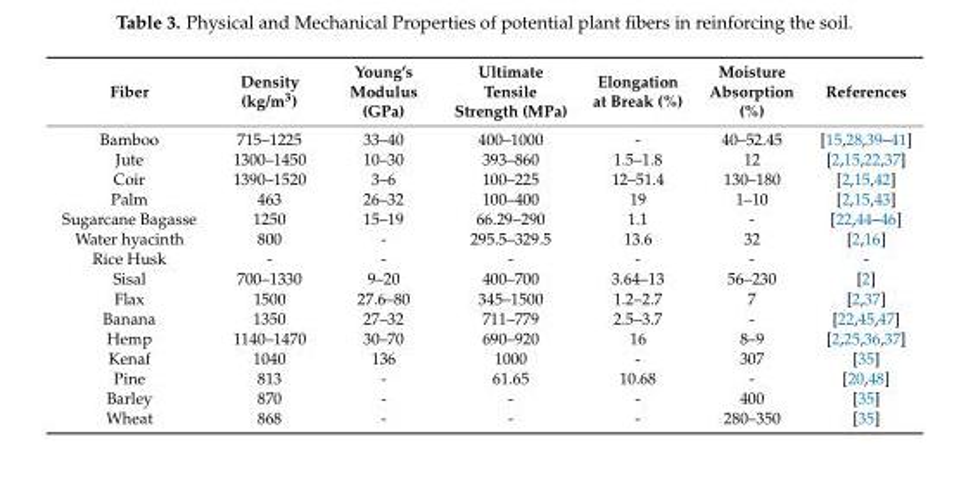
<table><thead><tr><td>Fiber</td><td>Density (kg/m<sup>3</sup>)</td><td>Young’s Modulus (GPa)</td><td>Ultimate Tensile Strength (MPa)</td><td>Elongation at Break (%)</td><td>Moisture Absorption (%)</td><td>References</td></tr></thead><tbody><tr><td>Bamboo</td><td>715–1225</td><td>33–40</td><td>400–1000</td><td>-</td><td>40–52.45</td><td>[15,28,39–41]</td></tr><tr><td>Jute</td><td>1300–1450</td><td>10–30</td><td>393–860</td><td>1.5–1.8</td><td>12</td><td>[2,15,22,37]</td></tr><tr><td>Coir</td><td>1390–1520</td><td>3–6</td><td>100–225</td><td>12–51.4</td><td>130–180</td><td>[2,15,42]</td></tr><tr><td>Palm</td><td>463</td><td>26–32</td><td>100–400</td><td>19</td><td>1–10</td><td>[2,15,43]</td></tr><tr><td>Sugarcane Bagasse</td><td>1250</td><td>15–19</td><td>66.29–290</td><td>1.1</td><td>-</td><td>[22,44–46]</td></tr><tr><td>Water hyacinth</td><td>800</td><td>-</td><td>295.5–329.5</td><td>13.6</td><td>32</td><td>[2,16]</td></tr><tr><td>Rice Husk</td><td>-</td><td>-</td><td>-</td><td>-</td><td>-</td><td>-</td></tr><tr><td>Sisal</td><td>700–1330</td><td>9–20</td><td>400–700</td><td>3.64–13</td><td>56–230</td><td>[2]</td></tr><tr><td>Flax</td><td>1500</td><td>27.6–80</td><td>345–1500</td><td>1.2–2.7</td><td>7</td><td>[2,37]</td></tr><tr><td>Banana</td><td>1350</td><td>27–32</td><td>711–779</td><td>2.5–3.7</td><td>-</td><td>[22,45,47]</td></tr><tr><td>Hemp</td><td>1140–1470</td><td>30–70</td><td>690–920</td><td>16</td><td>8–9</td><td>[2,25,36,37]</td></tr><tr><td>Kenaf</td><td>1040</td><td>136</td><td>1000</td><td>-</td><td>307</td><td>[35]</td></tr><tr><td>Pine</td><td>813</td><td>-</td><td>61.65</td><td>10.68</td><td>-</td><td>[20,48]</td></tr><tr><td>Barley</td><td>870</td><td>-</td><td>-</td><td>-</td><td>400</td><td>[35]</td></tr><tr><td>Wheat</td><td>868</td><td>-</td><td>-</td><td>-</td><td>280–350</td><td>[35]</td></tr></tbody></table>